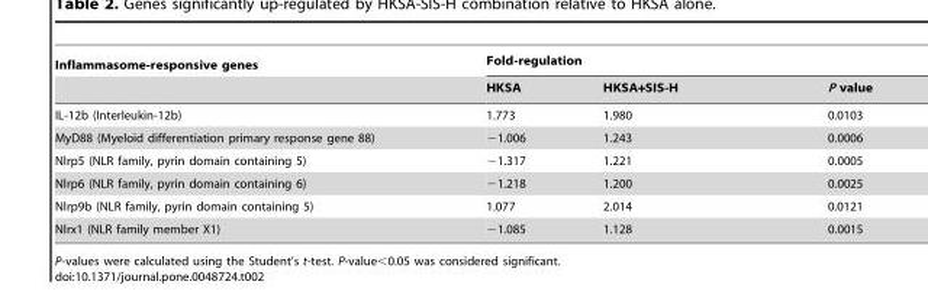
<table><thead><tr><td rowspan="2">Inflammasome-responsive genes</td><td colspan="3">Fold-regulation</td></tr><tr><td>HKSA</td><td>HKSA+SIS-H</td><td>P value</td></tr></thead><tbody><tr><td>IL-12b (Interleukin-12b)</td><td>1.773</td><td>1.980</td><td>0.0103</td></tr><tr><td>MyD88 (Myeloid differentiation primary response gene 88)</td><td>−1.006</td><td>1.243</td><td>0.0006</td></tr><tr><td>Nlrp5 (NLR family, pyrin domain containing 5)</td><td>−1.317</td><td>1.221</td><td>0.0005</td></tr><tr><td>Nlrp6 (NLR family, pyrin domain containing 6)</td><td>−1.218</td><td>1.200</td><td>0.0025</td></tr><tr><td>Nlrp9b (NLR family, pyrin domain containing 5)</td><td>1.077</td><td>2.014</td><td>0.0121</td></tr><tr><td>Nlrx1 (NLR family member X1)</td><td>−1.085</td><td>1.128</td><td>0.0015</td></tr></tbody></table>